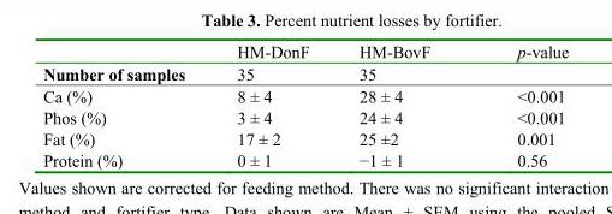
<table><thead><tr><td></td><td>HM-DonF</td><td>HM-BovF</td><td>p-value</td></tr></thead><tbody><tr><td>Number of samples</td><td>35</td><td>35</td><td></td></tr><tr><td>Ca (%)</td><td>8 ± 4</td><td>28 ± 4</td><td>&lt;0.001</td></tr><tr><td>Phos (%)</td><td>3 ± 4</td><td>24 ± 4</td><td>&lt;0.001</td></tr><tr><td>Fat (%)</td><td>17 ± 2</td><td>25 ±2</td><td>0.001</td></tr><tr><td>Protein (%)</td><td>0 ± 1</td><td>−1 ± 1</td><td>0.56</td></tr></tbody></table>